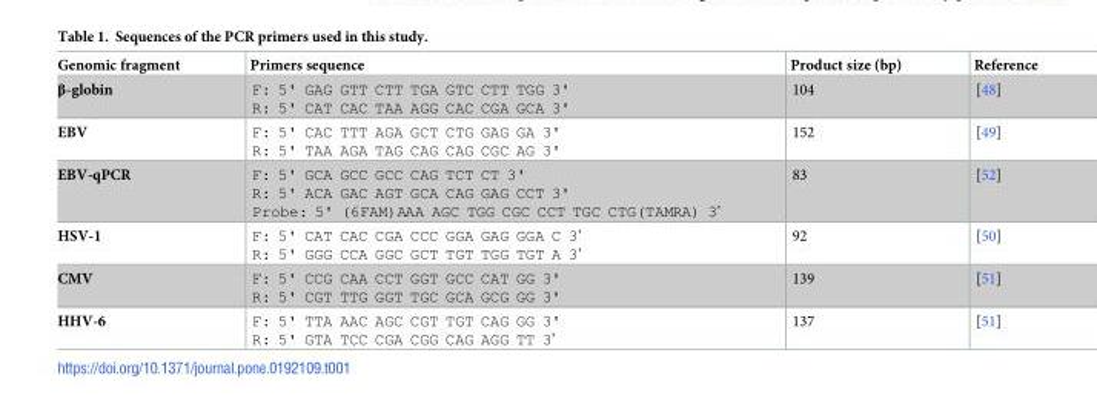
<table><thead><tr><td>Genomic fragment</td><td>Primers sequence</td><td>Product size (bp)</td><td>Reference</td></tr></thead><tbody><tr><td>β-globin</td><td>F: 5&#x27; GAG GTT CTT TGA GTC CTT TGG 3&#x27; R: 5&#x27; CAT CAC TAA AGG CAC CGA GCA 3&#x27;</td><td>104</td><td>[48]</td></tr><tr><td>EBV</td><td>F: 5&#x27; CAC TTT AGA GCT CTG GAG GA 3&#x27; R: 5&#x27; TAA AGA TAG CAG CAG CGC AG 3&#x27;</td><td>152</td><td>[49]</td></tr><tr><td>EBV-qPCR</td><td>F: 5&#x27; GCA GCC GCC CAG TCT CT 3&#x27; R: 5&#x27; ACA GAC AGT GCA CAG GAG CCT 3&#x27; Probe: 5&#x27; (6FAM)AAA AGC TGG CGC CCT TGC CTG(TAMRA) 3’</td><td>83</td><td>[52]</td></tr><tr><td>HSV-1</td><td>F: 5&#x27; CAT CAC CGA CCC GGA GAG GGA C 3’ R: 5&#x27; GGG CCA GGC GCT TGT TGG TGT A 3’</td><td>92</td><td>[50]</td></tr><tr><td>CMV</td><td>F: 5&#x27; CCG CAA CCT GGT GCC CAT GG 3&#x27; R: 5&#x27; CGT TTG GGT TGC GCA GCG GG 3&#x27;</td><td>139</td><td>[51]</td></tr><tr><td>HHV-6</td><td>F: 5&#x27; TTA AAC AGC CGT TGT CAG GG 3&#x27; R: 5&#x27; GTA TCC CGA CGG CAG AGG TT 3’</td><td>137</td><td>[51]</td></tr></tbody></table>